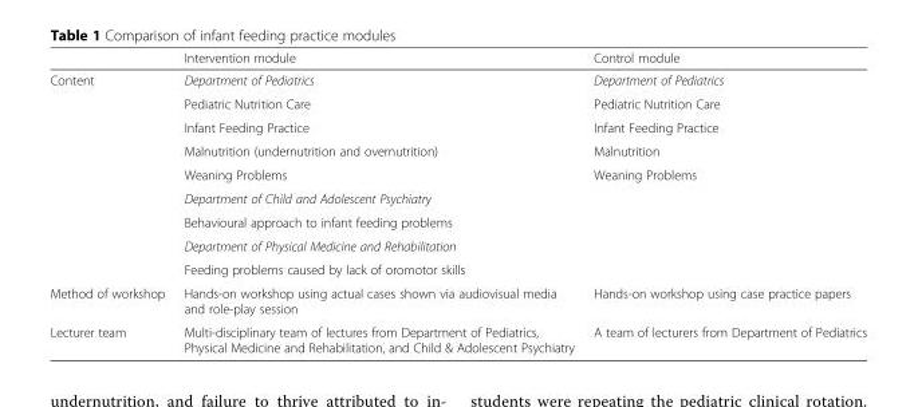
<table><thead><tr><td></td><td>Intervention module</td><td>Control module</td></tr></thead><tbody><tr><td rowspan="9">Content</td><td>Department of Pediatrics</td><td>Department of Pediatrics</td></tr><tr><td>Pediatric Nutrition Care</td><td>Pediatric Nutrition Care</td></tr><tr><td>Infant Feeding Practice</td><td>Infant Feeding Practice</td></tr><tr><td>Malnutrition (undernutrition and overnutrition)</td><td>Malnutrition</td></tr><tr><td>Weaning Problems</td><td>Weaning Problems</td></tr><tr><td>Department of Child and Adolescent Psychiatry</td><td></td></tr><tr><td>Behavioural approach to infant feeding problems</td><td></td></tr><tr><td>Department of Physical Medicine and Rehabilitation</td><td></td></tr><tr><td>Feeding problems caused by lack of oromotor skills</td><td></td></tr><tr><td>Method of workshop</td><td>Hands-on workshop using actual cases shown via audiovisual media and role-play session</td><td>Hands-on workshop using case practice papers</td></tr><tr><td>Lecturer team</td><td>Multi-disciplinary team of lectures from Department of Pediatrics, Physical Medicine and Rehabilitation, and Child &amp; Adolescent Psychiatry</td><td>A team of lecturers from Department of Pediatrics</td></tr></tbody></table>